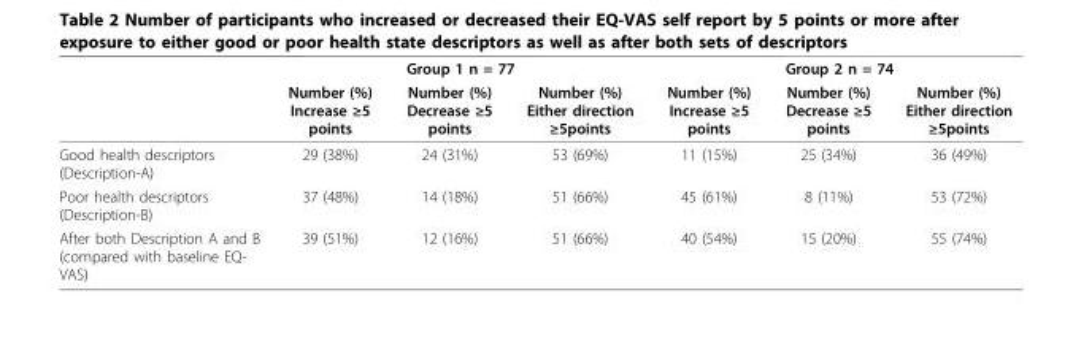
<table><thead><tr><td rowspan="2"></td><td colspan="3">Group 1 n = 77</td><td colspan="3">Group 2 n = 74</td></tr><tr><td>Number (%) Increase ≥5 points</td><td>Number (%) Decrease ≥5 points</td><td>Number (%) Either direction ≥5points</td><td>Number (%) Increase ≥5 points</td><td>Number (%) Decrease ≥5 points</td><td>Number (%) Either direction ≥5points</td></tr></thead><tbody><tr><td>Good health descriptors (Description-A)</td><td>29 (38%)</td><td>24 (31%)</td><td>53 (69%)</td><td>11 (15%)</td><td>25 (34%)</td><td>36 (49%)</td></tr><tr><td>Poor health descriptors (Description-B)</td><td>37 (48%)</td><td>14 (18%)</td><td>51 (66%)</td><td>45 (61%)</td><td>8 (11%)</td><td>53 (72%)</td></tr><tr><td>After both Description A and B (compared with baseline EQ- VAS)</td><td>39 (51%)</td><td>12 (16%)</td><td>51 (66%)</td><td>40 (54%)</td><td>15 (20%)</td><td>55 (74%)</td></tr></tbody></table>